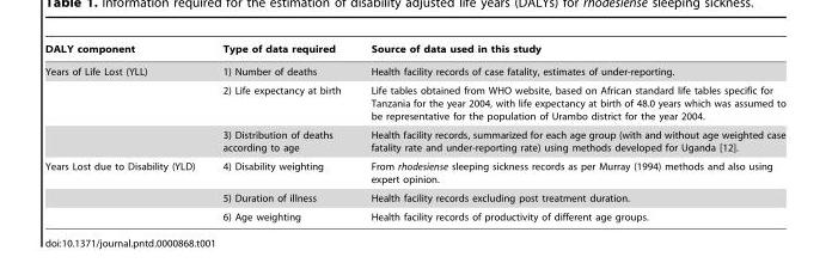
<table><thead><tr><td>DALY component</td><td>Type of data required</td><td>Source of data used in this study</td></tr></thead><tbody><tr><td rowspan="3">Years of Life Lost (YLL)</td><td>1) Number of deaths</td><td>Health facility records of case fatality, estimates of under-reporting.</td></tr><tr><td>2) Life expectancy at birth</td><td>Life tables obtained from WHO website, based on African standard life tables specific for Tanzania for the year 2004, with life expectancy at birth of 48.0 years which was assumed to be representative for the population of Urambo district for the year 2004.</td></tr><tr><td>3) Distribution of deaths according to age</td><td>Health facility records, summarized for each age group (with and without age weighted case fatality rate and under-reporting rate) using methods developed for Uganda [12].</td></tr><tr><td rowspan="3">Years Lost due to Disability (YLD)</td><td>4) Disability weighting</td><td>From rhodesiense sleeping sickness records as per Murray (1994) methods and also using expert opinion.</td></tr><tr><td>5) Duration of illness</td><td>Health facility records excluding post treatment duration.</td></tr><tr><td>6) Age weighting</td><td>Health facility records of productivity of different age groups.</td></tr></tbody></table>